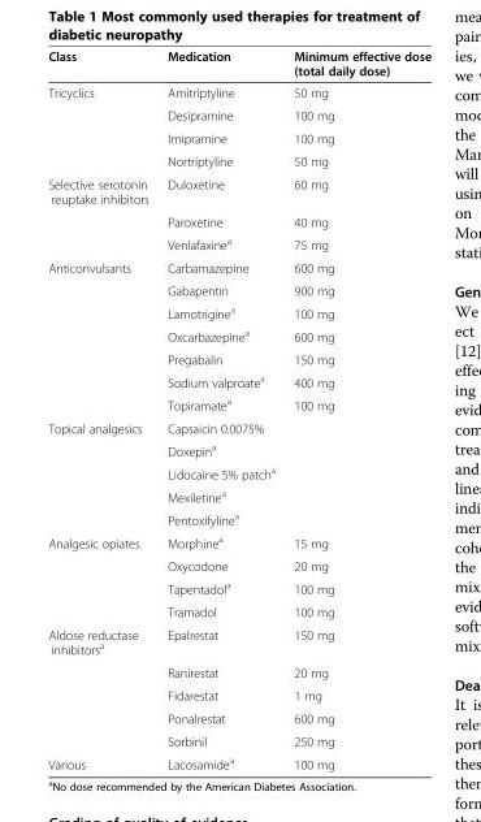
<table><thead><tr><td>Class</td><td>Medication</td><td>Minimum effective dose (total daily dose)</td></tr></thead><tbody><tr><td rowspan="4">Tricyclics</td><td>Amitriptyline</td><td>50 mg</td></tr><tr><td>Desipramine</td><td>100 mg</td></tr><tr><td>Imipramine</td><td>100 mg</td></tr><tr><td>Nortriptyline</td><td>50 mg</td></tr><tr><td rowspan="3">Selective serotonin reuptake inhibitors</td><td>Duloxetine</td><td>60 mg</td></tr><tr><td>Paroxetine</td><td>40 mg</td></tr><tr><td>Venlafaxine<sup>a</sup></td><td>75 mg</td></tr><tr><td rowspan="7">Anticonvulsants</td><td>Carbamazepine</td><td>600 mg</td></tr><tr><td>Gabapentin</td><td>900 mg</td></tr><tr><td>Lamotrigine<sup>a</sup></td><td>100 mg</td></tr><tr><td>Oxcarbazepine<sup>a</sup></td><td>600 mg</td></tr><tr><td>Pregabalin</td><td>150 mg</td></tr><tr><td>Sodium valproate<sup>a</sup></td><td>400 mg</td></tr><tr><td>Topiramate<sup>a</sup></td><td>100 mg</td></tr><tr><td rowspan="5">Topical analgesics</td><td>Capsaicin 0.0075%</td><td></td></tr><tr><td>Doxepin<sup>a</sup></td><td></td></tr><tr><td>Lidocaine 5% patch<sup>a</sup></td><td></td></tr><tr><td>Mexiletine<sup>a</sup></td><td></td></tr><tr><td>Pentoxifyline<sup>a</sup></td><td></td></tr><tr><td rowspan="4">Analgesic opiates</td><td>Morphine<sup>a</sup></td><td>15 mg</td></tr><tr><td>Oxycodone</td><td>20 mg</td></tr><tr><td>Tapentadol<sup>a</sup></td><td>100 mg</td></tr><tr><td>Tramadol</td><td>100 mg</td></tr><tr><td rowspan="5">Aldose reductase inhibitors<sup>a</sup></td><td>Epalrestat</td><td>150 mg</td></tr><tr><td>Ranirestat</td><td>20 mg</td></tr><tr><td>Fidarestat</td><td>1 mg</td></tr><tr><td>Ponalrestat</td><td>600 mg</td></tr><tr><td>Sorbinil</td><td>250 mg</td></tr><tr><td>Various</td><td>Lacosamide<sup>a</sup></td><td>100 mg</td></tr></tbody></table>